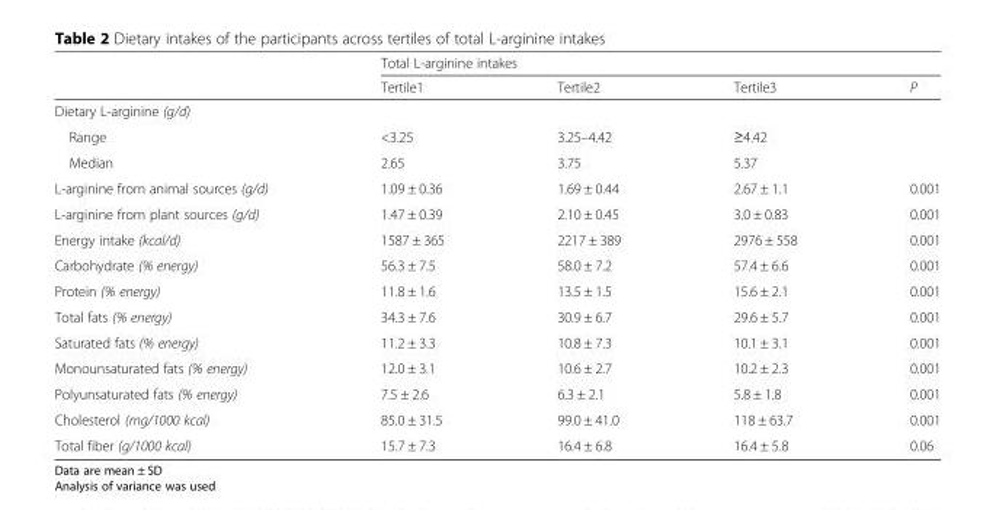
<table><thead><tr><td rowspan="2"></td><td colspan="4">Total L-arginine intakes</td></tr><tr><td>Tertile1</td><td>Tertile2</td><td>Tertile3</td><td>P</td></tr></thead><tbody><tr><td colspan="5">Dietary L-arginine (g/d)</td></tr><tr><td>Range</td><td>&lt;3.25</td><td>3.25–4.42</td><td>≥4.42</td><td></td></tr><tr><td>Median</td><td>2.65</td><td>3.75</td><td>5.37</td><td></td></tr><tr><td>L-arginine from animal sources (g/d)</td><td>1.09 ± 0.36</td><td>1.69 ± 0.44</td><td>2.67 ± 1.1</td><td>0.001</td></tr><tr><td>L-arginine from plant sources (g/d)</td><td>1.47 ± 0.39</td><td>2.10 ± 0.45</td><td>3.0 ± 0.83</td><td>0.001</td></tr><tr><td>Energy intake (kcal/d)</td><td>1587 ± 365</td><td>2217 ± 389</td><td>2976 ± 558</td><td>0.001</td></tr><tr><td>Carbohydrate (% energy)</td><td>56.3 ± 7.5</td><td>58.0 ± 7.2</td><td>57.4 ± 6.6</td><td>0.001</td></tr><tr><td>Protein (% energy)</td><td>11.8 ± 1.6</td><td>13.5 ± 1.5</td><td>15.6 ± 2.1</td><td>0.001</td></tr><tr><td>Total fats (% energy)</td><td>34.3 ± 7.6</td><td>30.9 ± 6.7</td><td>29.6 ± 5.7</td><td>0.001</td></tr><tr><td>Saturated fats (% energy)</td><td>11.2 ± 3.3</td><td>10.8 ± 7.3</td><td>10.1 ± 3.1</td><td>0.001</td></tr><tr><td>Monounsaturated fats (% energy)</td><td>12.0 ± 3.1</td><td>10.6 ± 2.7</td><td>10.2 ± 2.3</td><td>0.001</td></tr><tr><td>Polyunsaturated fats (% energy)</td><td>7.5 ± 2.6</td><td>6.3 ± 2.1</td><td>5.8 ± 1.8</td><td>0.001</td></tr><tr><td>Cholesterol (mg/1000 kcal)</td><td>85.0 ± 31.5</td><td>99.0 ± 41.0</td><td>118 ± 63.7</td><td>0.001</td></tr><tr><td>Total fiber (g/1000 kcal)</td><td>15.7 ± 7.3</td><td>16.4 ± 6.8</td><td>16.4 ± 5.8</td><td>0.06</td></tr></tbody></table>